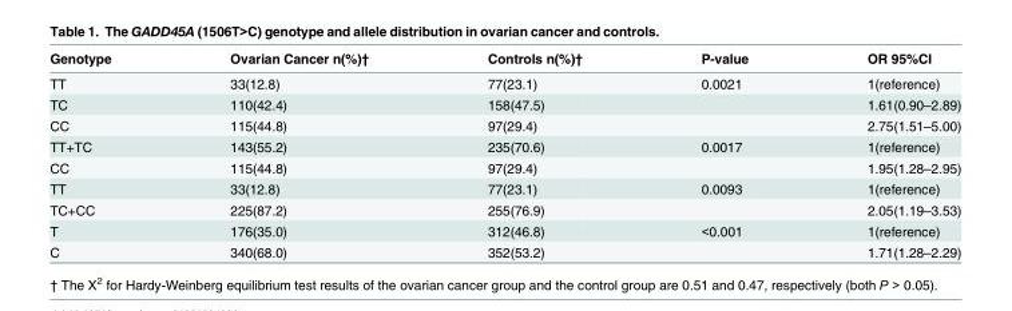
<table><thead><tr><td>Genotype</td><td>Ovarian Cancer n(%)†</td><td>Controls n(%)†</td><td>P-value</td><td>OR 95%CI</td></tr></thead><tbody><tr><td>TT</td><td>33(12.8)</td><td>77(23.1)</td><td>0.0021</td><td>1(reference)</td></tr><tr><td>TC</td><td>110(42.4)</td><td>158(47.5)</td><td></td><td>1.61(0.90–2.89)</td></tr><tr><td>CC</td><td>115(44.8)</td><td>97(29.4)</td><td></td><td>2.75(1.51–5.00)</td></tr><tr><td>TT+TC</td><td>143(55.2)</td><td>235(70.6)</td><td>0.0017</td><td>1(reference)</td></tr><tr><td>CC</td><td>115(44.8)</td><td>97(29.4)</td><td></td><td>1.95(1.28–2.95)</td></tr><tr><td>TT</td><td>33(12.8)</td><td>77(23.1)</td><td>0.0093</td><td>1(reference)</td></tr><tr><td>TC+CC</td><td>225(87.2)</td><td>255(76.9)</td><td></td><td>2.05(1.19–3.53)</td></tr><tr><td>T</td><td>176(35.0)</td><td>312(46.8)</td><td>&lt;0.001</td><td>1(reference)</td></tr><tr><td>C</td><td>340(68.0)</td><td>352(53.2)</td><td></td><td>1.71(1.28–2.29)</td></tr></tbody></table>